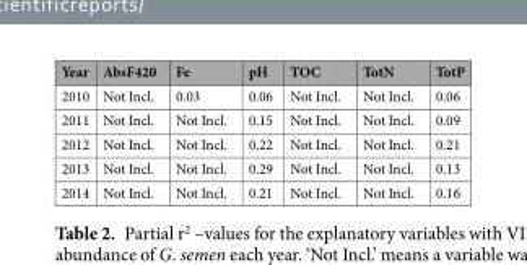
<table><thead><tr><td>Year</td><td>AbsF420</td><td>Fe</td><td>pH</td><td>TOC</td><td>TotN</td><td>TotP</td></tr></thead><tbody><tr><td>2010</td><td>Not Incl.</td><td>0.03</td><td>0.06</td><td>Not Incl.</td><td>Not Incl.</td><td>0.06</td></tr><tr><td>2011</td><td>Not Incl.</td><td>Not Incl.</td><td>0.15</td><td>Not Incl.</td><td>Not Incl.</td><td>0.09</td></tr><tr><td>2012</td><td>Not Incl.</td><td>Not Incl.</td><td>0.22</td><td>Not Incl.</td><td>Not Incl.</td><td>0.21</td></tr><tr><td>2013</td><td>Not Incl.</td><td>Not Incl.</td><td>0.29</td><td>Not Incl.</td><td>Not Incl.</td><td>0.13</td></tr><tr><td>2014</td><td>Not Incl.</td><td>Not Incl.</td><td>0.21</td><td>Not Incl.</td><td>Not Incl.</td><td>0.16</td></tr></tbody></table>